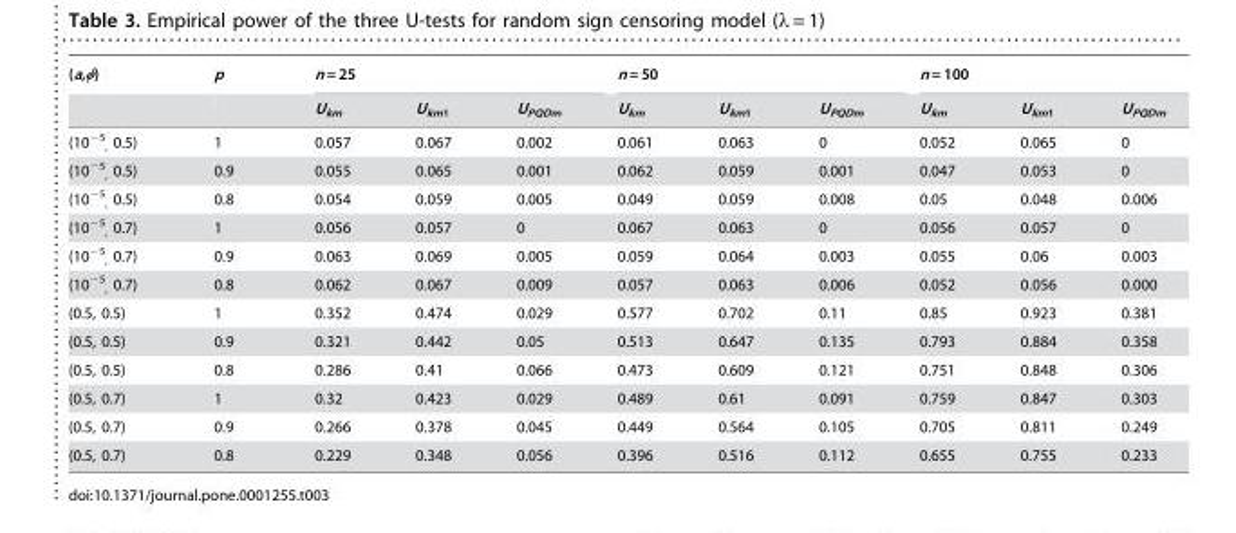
<table><thead><tr><td rowspan="2">(a,φ)</td><td rowspan="2">p</td><td colspan="3">n = 25</td><td colspan="3">n = 50</td><td colspan="3">n = 100</td></tr><tr><td>U<sub>km</sub></td><td>U<sub>km1</sub></td><td>U<sub>PQDm</sub></td><td>U<sub>km</sub></td><td>U<sub>km1</sub></td><td>U<sub>PQDm</sub></td><td>U<sub>km</sub></td><td>U<sub>km1</sub></td><td>U<sub>PQDm</sub></td></tr></thead><tbody><tr><td>(10<sup>−5</sup> <sub>,</sub> 0.5)</td><td>1</td><td>0.057</td><td>0.067</td><td>0.002</td><td>0.061</td><td>0.063</td><td>0</td><td>0.052</td><td>0.065</td><td>0</td></tr><tr><td>(10<sup>−5</sup> <sub>,</sub> 0.5)</td><td>0.9</td><td>0.055</td><td>0.065</td><td>0.001</td><td>0.062</td><td>0.059</td><td>0.001</td><td>0.047</td><td>0.053</td><td>0</td></tr><tr><td>(10<sup>−5</sup> <sub>,</sub> 0.5)</td><td>0.8</td><td>0.054</td><td>0.059</td><td>0.005</td><td>0.049</td><td>0.059</td><td>0.008</td><td>0.05</td><td>0.048</td><td>0.006</td></tr><tr><td>(10<sup>−5</sup> <sub>,</sub> 0.7)</td><td>1</td><td>0.056</td><td>0.057</td><td>0</td><td>0.067</td><td>0.063</td><td>0</td><td>0.056</td><td>0.057</td><td>0</td></tr><tr><td>(10<sup>−5</sup> <sub>,</sub> 0.7)</td><td>0.9</td><td>0.063</td><td>0.069</td><td>0.005</td><td>0.059</td><td>0.064</td><td>0.003</td><td>0.055</td><td>0.06</td><td>0.003</td></tr><tr><td>(10<sup>−5</sup> <sub>,</sub> 0.7)</td><td>0.8</td><td>0.062</td><td>0.067</td><td>0.009</td><td>0.057</td><td>0.063</td><td>0.006</td><td>0.052</td><td>0.056</td><td>0.000</td></tr><tr><td>(0.5, 0.5)</td><td>1</td><td>0.352</td><td>0.474</td><td>0.029</td><td>0.577</td><td>0.702</td><td>0.11</td><td>0.85</td><td>0.923</td><td>0.381</td></tr><tr><td>(0.5, 0.5)</td><td>0.9</td><td>0.321</td><td>0.442</td><td>0.05</td><td>0.513</td><td>0.647</td><td>0.135</td><td>0.793</td><td>0.884</td><td>0.358</td></tr><tr><td>(0.5, 0.5)</td><td>0.8</td><td>0.286</td><td>0.41</td><td>0.066</td><td>0.473</td><td>0.609</td><td>0.121</td><td>0.751</td><td>0.848</td><td>0.306</td></tr><tr><td>(0.5, 0.7)</td><td>1</td><td>0.32</td><td>0.423</td><td>0.029</td><td>0.489</td><td>0.61</td><td>0.091</td><td>0.759</td><td>0.847</td><td>0.303</td></tr><tr><td>(0.5, 0.7)</td><td>0.9</td><td>0.266</td><td>0.378</td><td>0.045</td><td>0.449</td><td>0.564</td><td>0.105</td><td>0.705</td><td>0.811</td><td>0.249</td></tr><tr><td>(0.5, 0.7)</td><td>0.8</td><td>0.229</td><td>0.348</td><td>0.056</td><td>0.396</td><td>0.516</td><td>0.112</td><td>0.655</td><td>0.755</td><td>0.233</td></tr></tbody></table>